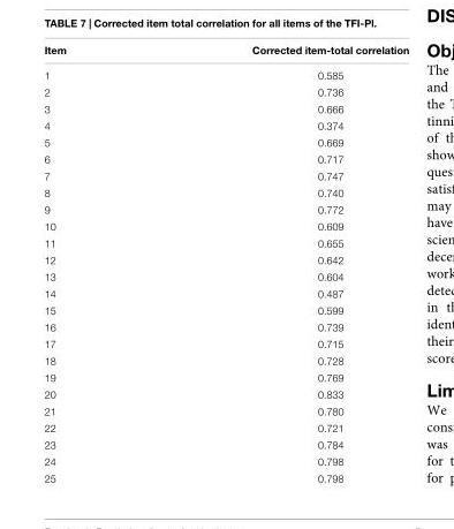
<table><thead><tr><td>Item</td><td>Corrected item-total correlation</td></tr></thead><tbody><tr><td>1</td><td>0.585</td></tr><tr><td>2</td><td>0.736</td></tr><tr><td>3</td><td>0.666</td></tr><tr><td>4</td><td>0.374</td></tr><tr><td>5</td><td>0.669</td></tr><tr><td>6</td><td>0.717</td></tr><tr><td>7</td><td>0.747</td></tr><tr><td>8</td><td>0.740</td></tr><tr><td>9</td><td>0.772</td></tr><tr><td>10</td><td>0.609</td></tr><tr><td>11</td><td>0.655</td></tr><tr><td>12</td><td>0.642</td></tr><tr><td>13</td><td>0.604</td></tr><tr><td>14</td><td>0.487</td></tr><tr><td>15</td><td>0.599</td></tr><tr><td>16</td><td>0.739</td></tr><tr><td>17</td><td>0.715</td></tr><tr><td>18</td><td>0.728</td></tr><tr><td>19</td><td>0.769</td></tr><tr><td>20</td><td>0.833</td></tr><tr><td>21</td><td>0.780</td></tr><tr><td>22</td><td>0.721</td></tr><tr><td>23</td><td>0.784</td></tr><tr><td>24</td><td>0.798</td></tr><tr><td>25</td><td>0.798</td></tr></tbody></table>